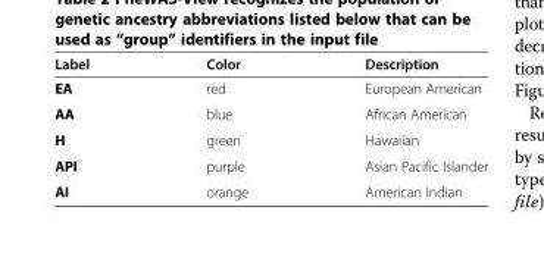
<table><thead><tr><td>Label</td><td>Color</td><td>Description</td></tr></thead><tbody><tr><td>EA</td><td>red</td><td>European American</td></tr><tr><td>AA</td><td>blue</td><td>African American</td></tr><tr><td>H</td><td>green</td><td>Hawaiian</td></tr><tr><td>API</td><td>purple</td><td>Asian Pacific Islander</td></tr><tr><td>AI</td><td>orange</td><td>American Indian</td></tr></tbody></table>